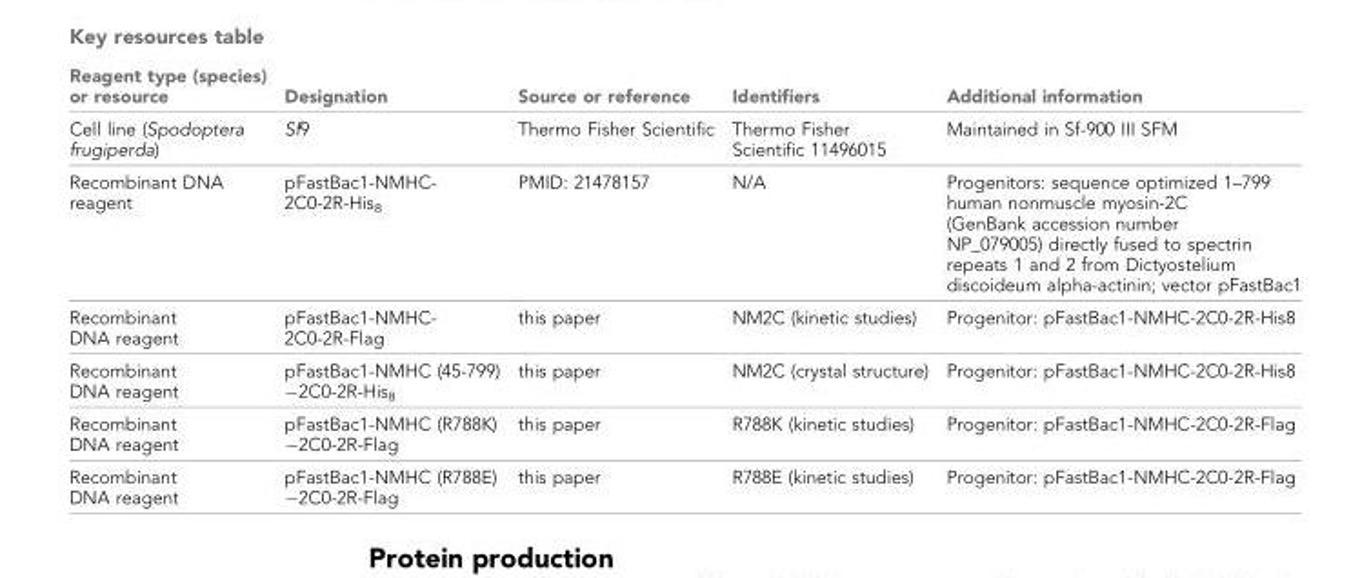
<table><thead><tr><td>Reagent type (species) or resource</td><td>Designation</td><td>Source or reference</td><td>Identifiers</td><td>Additional information</td></tr></thead><tbody><tr><td>Cell line (Spodoptera frugiperda)</td><td>Sf9</td><td>Thermo Fisher Scientific</td><td>Thermo Fisher Scientific 11496015</td><td>Maintained in Sf-900 III SFM</td></tr><tr><td>Recombinant DNA reagent</td><td>pFastBac1-NMHC- 2C0-2R-His<sub>8</sub></td><td>PMID: 21478157</td><td>N/A</td><td>Progenitors: sequence optimized 1–799 human nonmuscle myosin-2C (GenBank accession number NP_079005) directly fused to spectrin repeats 1 and 2 from Dictyostelium discoideum alpha-actinin; vector pFastBac1</td></tr><tr><td>Recombinant DNA reagent</td><td>pFastBac1-NMHC- 2C0-2R-Flag</td><td>this paper</td><td>NM2C (kinetic studies)</td><td>Progenitor: pFastBac1-NMHC-2C0-2R-His8</td></tr><tr><td>Recombinant DNA reagent</td><td>pFastBac1-NMHC (45-799) −2C0-2R-His<sub>8</sub></td><td>this paper</td><td>NM2C (crystal structure)</td><td>Progenitor: pFastBac1-NMHC-2C0-2R-His8</td></tr><tr><td>Recombinant DNA reagent</td><td>pFastBac1-NMHC (R788K) −2C0-2R-Flag</td><td>this paper</td><td>R788K (kinetic studies)</td><td>Progenitor: pFastBac1-NMHC-2C0-2R-Flag</td></tr><tr><td>Recombinant DNA reagent</td><td>pFastBac1-NMHC (R788E) −2C0-2R-Flag</td><td>this paper</td><td>R788E (kinetic studies)</td><td>Progenitor: pFastBac1-NMHC-2C0-2R-Flag</td></tr></tbody></table>